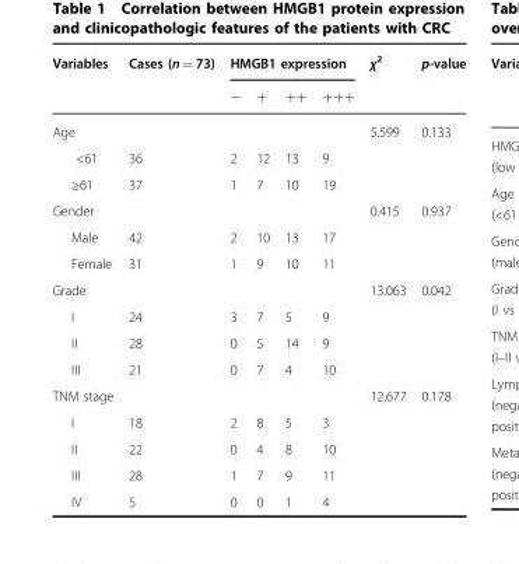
<table><thead><tr><td rowspan="2">Variables</td><td rowspan="2">Cases (n = 73)</td><td colspan="4">HMGB1 expression</td><td rowspan="2">χ<sup>2</sup></td><td rowspan="2">p-value</td></tr><tr><td>−</td><td>+</td><td>++</td><td>+++</td></tr></thead><tbody><tr><td>Age</td><td></td><td></td><td></td><td></td><td></td><td>5.599</td><td>0.133</td></tr><tr><td>&lt;61</td><td>36</td><td>2</td><td>12</td><td>13</td><td>9</td><td></td><td></td></tr><tr><td>≥61</td><td>37</td><td>1</td><td>7</td><td>10</td><td>19</td><td></td><td></td></tr><tr><td>Gender</td><td></td><td></td><td></td><td></td><td></td><td>0.415</td><td>0.937</td></tr><tr><td>Male</td><td>42</td><td>2</td><td>10</td><td>13</td><td>17</td><td></td><td></td></tr><tr><td>Female</td><td>31</td><td>1</td><td>9</td><td>10</td><td>11</td><td></td><td></td></tr><tr><td>Grade</td><td></td><td></td><td></td><td></td><td></td><td>13.063</td><td>0.042</td></tr><tr><td>I</td><td>24</td><td>3</td><td>7</td><td>5</td><td>9</td><td></td><td></td></tr><tr><td>II</td><td>28</td><td>0</td><td>5</td><td>14</td><td>9</td><td></td><td></td></tr><tr><td>III</td><td>21</td><td>0</td><td>7</td><td>4</td><td>10</td><td></td><td></td></tr><tr><td>TNM stage</td><td></td><td></td><td></td><td></td><td></td><td>12.677</td><td>0.178</td></tr><tr><td>I</td><td>18</td><td>2</td><td>8</td><td>5</td><td>3</td><td></td><td></td></tr><tr><td>II</td><td>22</td><td>0</td><td>4</td><td>8</td><td>10</td><td></td><td></td></tr><tr><td>III</td><td>28</td><td>1</td><td>7</td><td>9</td><td>11</td><td></td><td></td></tr><tr><td>IV</td><td>5</td><td>0</td><td>0</td><td>1</td><td>4</td><td></td><td></td></tr></tbody></table>